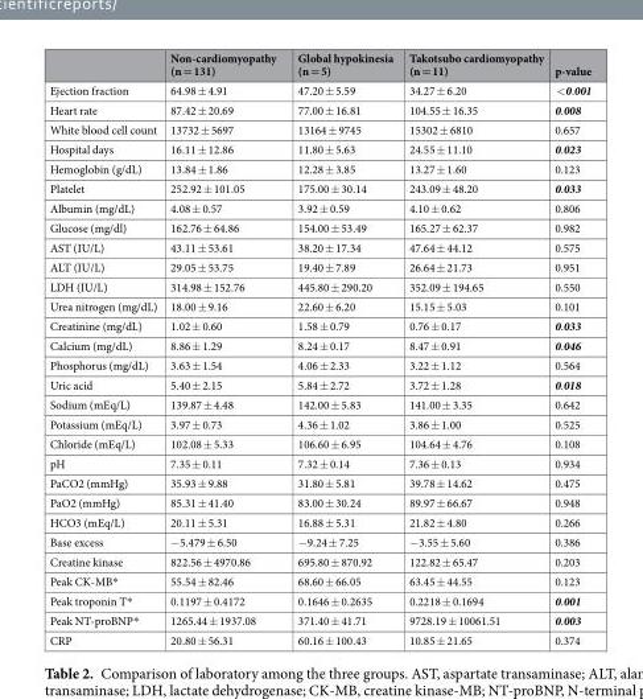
<table><thead><tr><td></td><td>Non-cardiomyopathy (n = 131)</td><td>Global hypokinesia (n = 5)</td><td>Takotsubo cardiomyopathy (n = 11)</td><td>p-value</td></tr></thead><tbody><tr><td>Ejection fraction</td><td>64.98 ± 4.91</td><td>47.20 ± 5.59</td><td>34.27 ± 6.20</td><td>&lt;0.001</td></tr><tr><td>Heart rate</td><td>87.42 ± 20.69</td><td>77.00 ± 16.81</td><td>104.55 ± 16.35</td><td>0.008</td></tr><tr><td>White blood cell count</td><td>13732 ± 5697</td><td>13164 ± 9745</td><td>15302 ± 6810</td><td>0.657</td></tr><tr><td>Hospital days</td><td>16.11 ± 12.86</td><td>11.80 ± 5.63</td><td>24.55 ± 11.10</td><td>0.023</td></tr><tr><td>Hemoglobin (g/dL)</td><td>13.84 ± 1.86</td><td>12.28 ± 3.85</td><td>13.27 ± 1.60</td><td>0.123</td></tr><tr><td>Platelet</td><td>252.92 ± 101.05</td><td>175.00 ± 30.14</td><td>243.09 ± 48.20</td><td>0.033</td></tr><tr><td>Albumin (mg/dL)</td><td>4.08 ± 0.57</td><td>3.92 ± 0.59</td><td>4.10 ± 0.62</td><td>0.806</td></tr><tr><td>Glucose (mg/dl)</td><td>162.76 ± 64.86</td><td>154.00 ± 53.49</td><td>165.27 ± 62.37</td><td>0.982</td></tr><tr><td>AST (IU/L)</td><td>43.11 ± 53.61</td><td>38.20 ± 17.34</td><td>47.64 ± 44.12</td><td>0.575</td></tr><tr><td>ALT (IU/L)</td><td>29.05 ± 53.75</td><td>19.40 ± 7.89</td><td>26.64 ± 21.73</td><td>0.951</td></tr><tr><td>LDH (IU/L)</td><td>314.98 ± 152.76</td><td>445.80 ± 290.20</td><td>352.09 ± 194.65</td><td>0.550</td></tr><tr><td>Urea nitrogen (mg/dL)</td><td>18.00 ± 9.16</td><td>22.60 ± 6.20</td><td>15.15 ± 5.03</td><td>0.101</td></tr><tr><td>Creatinine (mg/dL)</td><td>1.02 ± 0.60</td><td>1.58 ± 0.79</td><td>0.76 ± 0.17</td><td>0.033</td></tr><tr><td>Calcium (mg/dL)</td><td>8.86 ± 1.29</td><td>8.24 ± 0.17</td><td>8.47 ± 0.91</td><td>0.046</td></tr><tr><td>Phosphorus (mg/dL)</td><td>3.63 ± 1.54</td><td>4.06 ± 2.33</td><td>3.22 ± 1.12</td><td>0.564</td></tr><tr><td>Uric acid</td><td>5.40 ± 2.15</td><td>5.84 ± 2.72</td><td>3.72 ± 1.28</td><td>0.018</td></tr><tr><td>Sodium (mEq/L)</td><td>139.87 ± 4.48</td><td>142.00 ± 5.83</td><td>141.00 ± 3.35</td><td>0.642</td></tr><tr><td>Potassium (mEq/L)</td><td>3.97 ± 0.73</td><td>4.36 ± 1.02</td><td>3.86 ± 1.00</td><td>0.525</td></tr><tr><td>Chloride (mEq/L)</td><td>102.08 ± 5.33</td><td>106.60 ± 6.95</td><td>104.64 ± 4.76</td><td>0.108</td></tr><tr><td>pH</td><td>7.35 ± 0.11</td><td>7.32 ± 0.14</td><td>7.36 ± 0.13</td><td>0.934</td></tr><tr><td>PaCO2 (mmHg)</td><td>35.93 ± 9.88</td><td>31.80 ± 5.81</td><td>39.78 ± 14.62</td><td>0.475</td></tr><tr><td>PaO2 (mmHg)</td><td>85.31 ± 41.40</td><td>83.00 ± 30.24</td><td>89.97 ± 66.67</td><td>0.948</td></tr><tr><td>HCO3 (mEq/L)</td><td>20.11 ± 5.31</td><td>16.88 ± 5.31</td><td>21.82 ± 4.80</td><td>0.266</td></tr><tr><td>Base excess</td><td>−5.479 ± 6.50</td><td>−9.24 ± 7.25</td><td>−3.55 ± 5.60</td><td>0.386</td></tr><tr><td>Creatine kinase</td><td>822.56 ± 4970.86</td><td>695.80 ± 870.92</td><td>122.82 ± 65.47</td><td>0.203</td></tr><tr><td>Peak CK-MB*</td><td>55.54 ± 82.46</td><td>68.60 ± 66.05</td><td>63.45 ± 44.55</td><td>0.123</td></tr><tr><td>Peak troponin T*</td><td>0.1197 ± 0.4172</td><td>0.1646 ± 0.2635</td><td>0.2218 ± 0.1694</td><td>0.001</td></tr><tr><td>Peak NT-proBNP*</td><td>1265.44 ± 1937.08</td><td>371.40 ± 41.71</td><td>9728.19 ± 10061.51</td><td>0.003</td></tr><tr><td>CRP</td><td>20.80 ± 56.31</td><td>60.16 ± 100.43</td><td>10.85 ± 21.65</td><td>0.374</td></tr></tbody></table>